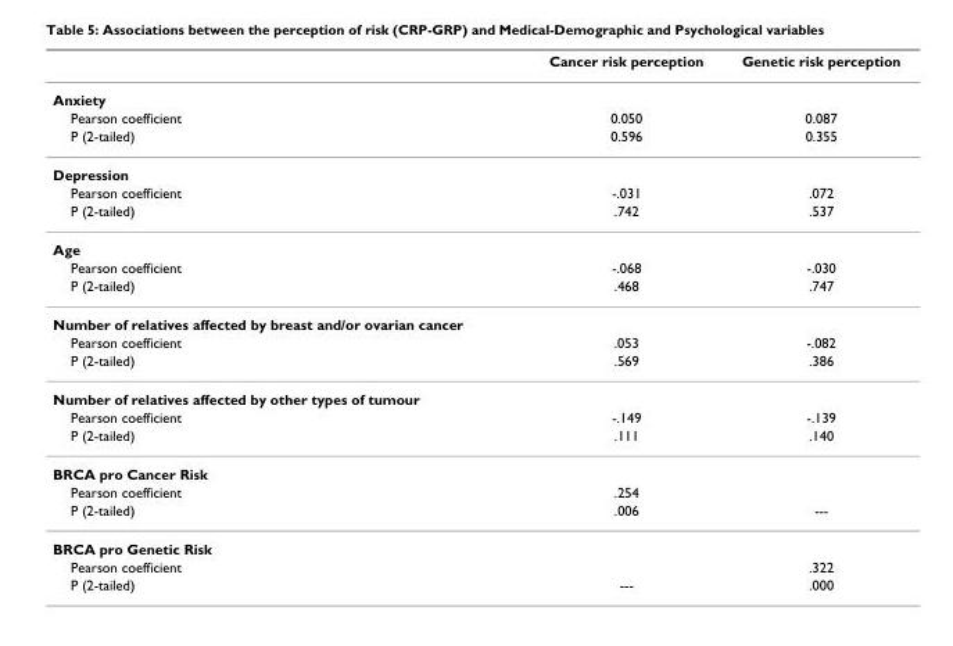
<table><thead><tr><td></td><td>Cancer risk perception</td><td>Genetic risk perception</td></tr></thead><tbody><tr><td colspan="3">Anxiety</td></tr><tr><td>Pearson coefficient</td><td>0.050</td><td>0.087</td></tr><tr><td>P (2-tailed)</td><td>0.596</td><td>0.355</td></tr><tr><td colspan="3">Depression</td></tr><tr><td>Pearson coefficient</td><td>-.031</td><td>.072</td></tr><tr><td>P (2-tailed)</td><td>.742</td><td>.537</td></tr><tr><td colspan="3">Age</td></tr><tr><td>Pearson coefficient</td><td>-.068</td><td>-.030</td></tr><tr><td>P (2-tailed)</td><td>.468</td><td>.747</td></tr><tr><td colspan="3">Number of relatives affected by breast and/or ovarian cancer</td></tr><tr><td>Pearson coefficient</td><td>.053</td><td>-.082</td></tr><tr><td>P (2-tailed)</td><td>.569</td><td>.386</td></tr><tr><td colspan="3">Number of relatives affected by other types of tumour</td></tr><tr><td>Pearson coefficient</td><td>-.149</td><td>-.139</td></tr><tr><td>P (2-tailed)</td><td>.111</td><td>.140</td></tr><tr><td colspan="3">BRCA pro Cancer Risk</td></tr><tr><td>Pearson coefficient</td><td>.254</td><td></td></tr><tr><td>P (2-tailed)</td><td>.006</td><td>---</td></tr><tr><td colspan="3">BRCA pro Genetic Risk</td></tr><tr><td>Pearson coefficient</td><td></td><td>.322</td></tr><tr><td>P (2-tailed)</td><td>---</td><td>.000</td></tr></tbody></table>